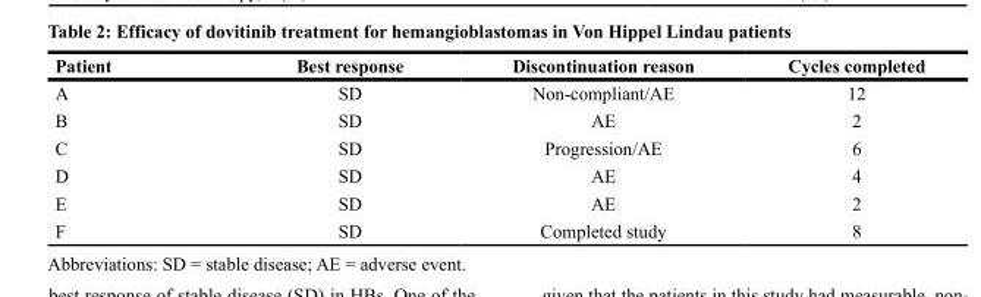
<table><thead><tr><td>Patient</td><td>Best response</td><td>Discontinuation reason</td><td>Cycles completed</td></tr></thead><tbody><tr><td>A</td><td>SD</td><td>Non-compliant/AE</td><td>12</td></tr><tr><td>B</td><td>SD</td><td>AE</td><td>2</td></tr><tr><td>C</td><td>SD</td><td>Progression/AE</td><td>6</td></tr><tr><td>D</td><td>SD</td><td>AE</td><td>4</td></tr><tr><td>E</td><td>SD</td><td>AE</td><td>2</td></tr><tr><td>F</td><td>SD</td><td>Completed study</td><td>8</td></tr></tbody></table>